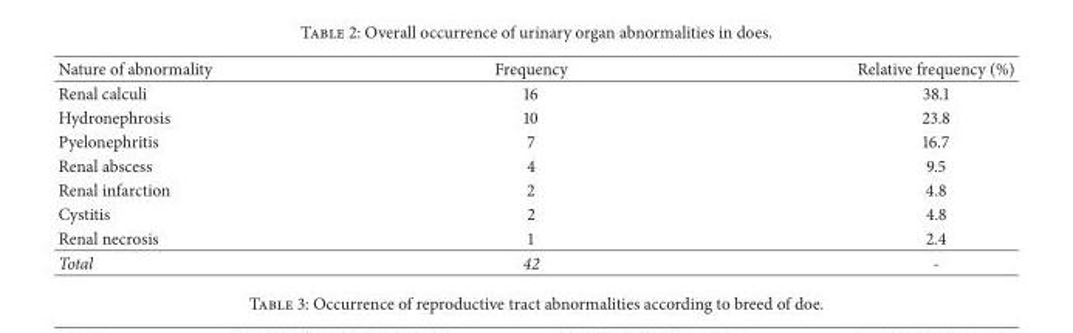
<table><thead><tr><td>Nature of abnormality</td><td>Frequency</td><td>Relative frequency (%)</td></tr></thead><tbody><tr><td>Renal calculi</td><td>16</td><td>38.1</td></tr><tr><td>Hydronephrosis</td><td>10</td><td>23.8</td></tr><tr><td>Pyelonephritis</td><td>7</td><td>16.7</td></tr><tr><td>Renal abscess</td><td>4</td><td>9.5</td></tr><tr><td>Renal infarction</td><td>2</td><td>4.8</td></tr><tr><td>Cystitis</td><td>2</td><td>4.8</td></tr><tr><td>Renal necrosis</td><td>1</td><td>2.4</td></tr><tr><td>Total</td><td>42</td><td>-</td></tr></tbody></table>